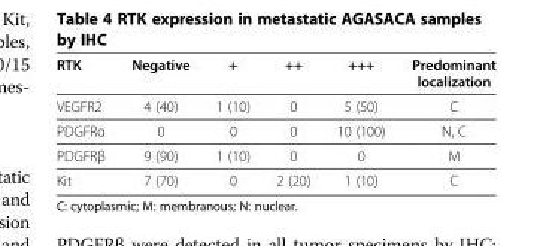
<table><thead><tr><td>RTK</td><td>Negative</td><td>+</td><td>++</td><td>+++</td><td>Predominant localization</td></tr></thead><tbody><tr><td>VEGFR2</td><td>4 (40)</td><td>1 (10)</td><td>0</td><td>5 (50)</td><td>C</td></tr><tr><td>PDGFRα</td><td>0</td><td>0</td><td>0</td><td>10 (100)</td><td>N, C</td></tr><tr><td>PDGFRβ</td><td>9 (90)</td><td>1 (10)</td><td>0</td><td>0</td><td>M</td></tr><tr><td>Kit</td><td>7 (70)</td><td>0</td><td>2 (20)</td><td>1 (10)</td><td>C</td></tr></tbody></table>